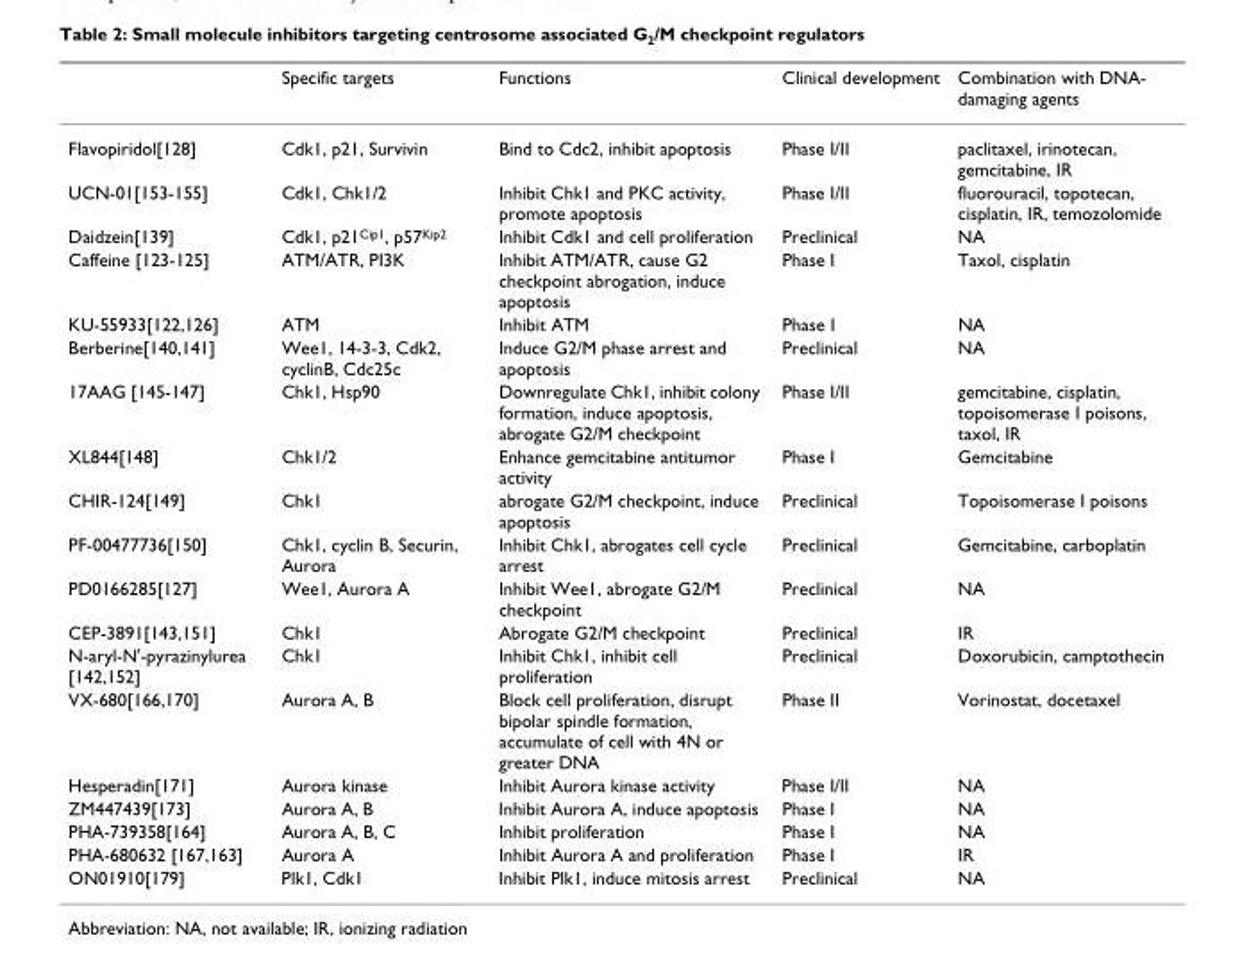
<table><thead><tr><td></td><td>Specific targets</td><td>Functions</td><td>Clinical development</td><td>Combination with DNA- damaging agents</td></tr></thead><tbody><tr><td>Flavopiridol[128]</td><td>Cdk1, p21, Survivin</td><td>Bind to Cdc2, inhibit apoptosis</td><td>Phase I/II</td><td>paclitaxel, irinotecan, gemcitabine, IR</td></tr><tr><td>UCN-01[153-155]</td><td>Cdk1, Chk1/2</td><td>Inhibit Chk1 and PKC activity, promote apoptosis</td><td>Phase I/II</td><td>fluorouracil, topotecan, cisplatin, IR, temozolomide</td></tr><tr><td>Daidzein[139]</td><td>Cdk1, p21<sup>Cip1</sup>, p57<sup>Kip2</sup></td><td>Inhibit Cdk1 and cell proliferation</td><td>Preclinical</td><td>NA</td></tr><tr><td>Caffeine [123-125]</td><td>ATM/ATR, PI3K</td><td>Inhibit ATM/ATR, cause G2 checkpoint abrogation, induce apoptosis</td><td>Phase I</td><td>Taxol, cisplatin</td></tr><tr><td>KU-55933[122,126]</td><td>ATM</td><td>Inhibit ATM</td><td>Phase I</td><td>NA</td></tr><tr><td>Berberine[140,141]</td><td>Wee1, 14-3-3, Cdk2, cyclinB, Cdc25c</td><td>Induce G2/M phase arrest and apoptosis</td><td>Preclinical</td><td>NA</td></tr><tr><td>17AAG [145-147]</td><td>Chk1, Hsp90</td><td>Downregulate Chk1, inhibit colony formation, induce apoptosis, abrogate G2/M checkpoint</td><td>Phase I/II</td><td>gemcitabine, cisplatin, topoisomerase I poisons, taxol, IR</td></tr><tr><td>XL844[148]</td><td>Chk1/2</td><td>Enhance gemcitabine antitumor activity</td><td>Phase I</td><td>Gemcitabine</td></tr><tr><td>CHIR-124[149]</td><td>Chk1</td><td>abrogate G2/M checkpoint, induce apoptosis</td><td>Preclinical</td><td>Topoisomerase I poisons</td></tr><tr><td>PF-00477736[150]</td><td>Chk1, cyclin B, Securin, Aurora</td><td>Inhibit Chk1, abrogates cell cycle arrest</td><td>Preclinical</td><td>Gemcitabine, carboplatin</td></tr><tr><td>PD0166285[127]</td><td>Wee1, Aurora A</td><td>Inhibit Wee1, abrogate G2/M checkpoint</td><td>Preclinical</td><td>NA</td></tr><tr><td>CEP-3891[143,151]</td><td>Chk1</td><td>Abrogate G2/M checkpoint</td><td>Preclinical</td><td>IR</td></tr><tr><td>N-aryl-N&#x27;-pyrazinylurea [142,152]</td><td>Chk1</td><td>Inhibit Chk1, inhibit cell proliferation</td><td>Preclinical</td><td>Doxorubicin, camptothecin</td></tr><tr><td>VX-680[166,170]</td><td>Aurora A, B</td><td>Block cell proliferation, disrupt bipolar spindle formation, accumulate of cell with 4N or greater DNA</td><td>Phase II</td><td>Vorinostat, docetaxel</td></tr><tr><td>Hesperadin[171]</td><td>Aurora kinase</td><td>Inhibit Aurora kinase activity</td><td>Phase I/II</td><td>NA</td></tr><tr><td>ZM447439[173]</td><td>Aurora A, B</td><td>Inhibit Aurora A, induce apoptosis</td><td>Phase I</td><td>NA</td></tr><tr><td>PHA-739358[164]</td><td>Aurora A, B, C</td><td>Inhibit proliferation</td><td>Phase I</td><td>NA</td></tr><tr><td>PHA-680632 [167,163]</td><td>Aurora A</td><td>Inhibit Aurora A and proliferation</td><td>Phase I</td><td>IR</td></tr><tr><td>ON01910[179]</td><td>Plk1, Cdk1</td><td>Inhibit Plk1, induce mitosis arrest</td><td>Preclinical</td><td>NA</td></tr></tbody></table>